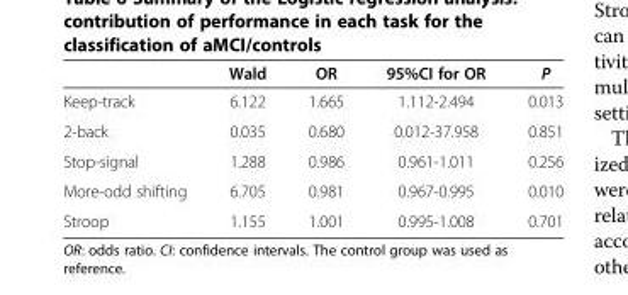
<table><thead><tr><td></td><td>Wald</td><td>OR</td><td>95%CI for OR</td><td>P</td></tr></thead><tbody><tr><td>Keep-track</td><td>6.122</td><td>1.665</td><td>1.112-2.494</td><td>0.013</td></tr><tr><td>2-back</td><td>0.035</td><td>0.680</td><td>0.012-37.958</td><td>0.851</td></tr><tr><td>Stop-signal</td><td>1.288</td><td>0.986</td><td>0.961-1.011</td><td>0.256</td></tr><tr><td>More-odd shifting</td><td>6.705</td><td>0.981</td><td>0.967-0.995</td><td>0.010</td></tr><tr><td>Stroop</td><td>1.155</td><td>1.001</td><td>0.995-1.008</td><td>0.701</td></tr></tbody></table>